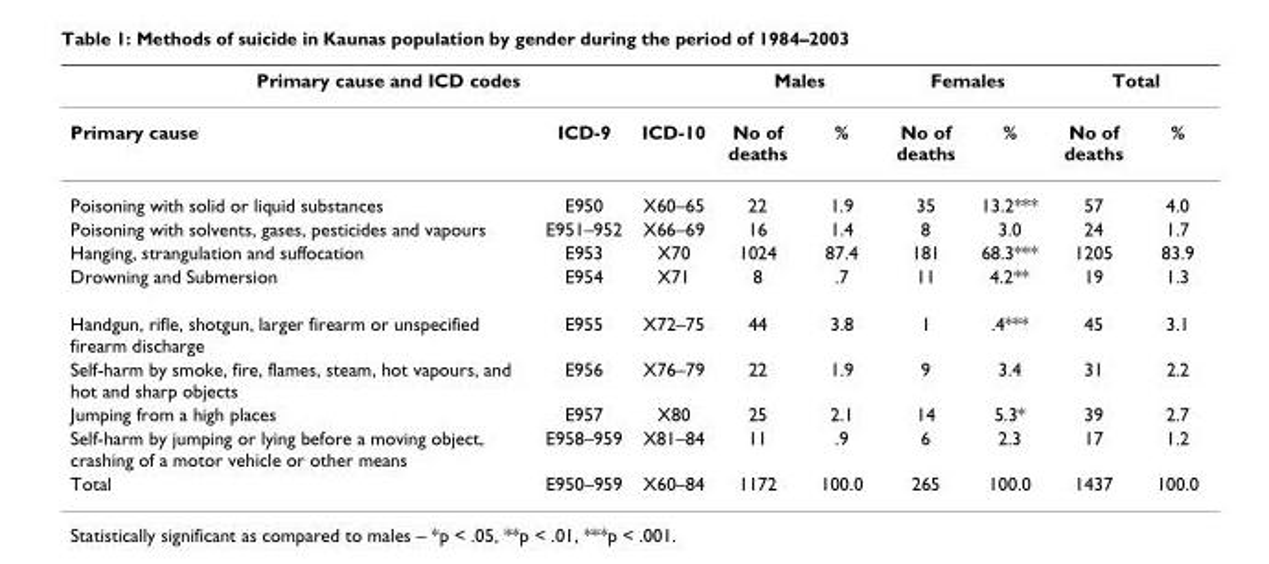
<table><thead><tr><td colspan="3">Primary cause and ICD codes</td><td colspan="2">Males</td><td colspan="2">Females</td><td colspan="2">Total</td></tr><tr><td>Primary cause</td><td>ICD-9</td><td>ICD-10</td><td>No of deaths</td><td>%</td><td>No of deaths</td><td>%</td><td>No of deaths</td><td>%</td></tr></thead><tbody><tr><td>Poisoning with solid or liquid substances</td><td>E950</td><td>X60–65</td><td>22</td><td>1.9</td><td>35</td><td>13.2***</td><td>57</td><td>4.0</td></tr><tr><td>Poisoning with solvents, gases, pesticides and vapours</td><td>E951–952</td><td>X66–69</td><td>16</td><td>1.4</td><td>8</td><td>3.0</td><td>24</td><td>1.7</td></tr><tr><td>Hanging, strangulation and suffocation</td><td>E953</td><td>X70</td><td>1024</td><td>87.4</td><td>181</td><td>68.3***</td><td>1205</td><td>83.9</td></tr><tr><td>Drowning and Submersion</td><td>E954</td><td>X71</td><td>8</td><td>.7</td><td>11</td><td>4.2**</td><td>19</td><td>1.3</td></tr><tr><td>Handgun, rifle, shotgun, larger firearm or unspecified firearm discharge</td><td>E955</td><td>X72–75</td><td>44</td><td>3.8</td><td>1</td><td>.4***</td><td>45</td><td>3.1</td></tr><tr><td>Self-harm by smoke, fire, flames, steam, hot vapours, and hot and sharp objects</td><td>E956</td><td>X76–79</td><td>22</td><td>1.9</td><td>9</td><td>3.4</td><td>31</td><td>2.2</td></tr><tr><td>Jumping from a high places</td><td>E957</td><td>X80</td><td>25</td><td>2.1</td><td>14</td><td>5.3*</td><td>39</td><td>2.7</td></tr><tr><td>Self-harm by jumping or lying before a moving object, crashing of a motor vehicle or other means</td><td>E958–959</td><td>X81–84</td><td>11</td><td>.9</td><td>6</td><td>2.3</td><td>17</td><td>1.2</td></tr><tr><td>Total</td><td>E950–959</td><td>X60–84</td><td>1172</td><td>100.0</td><td>265</td><td>100.0</td><td>1437</td><td>100.0</td></tr></tbody></table>